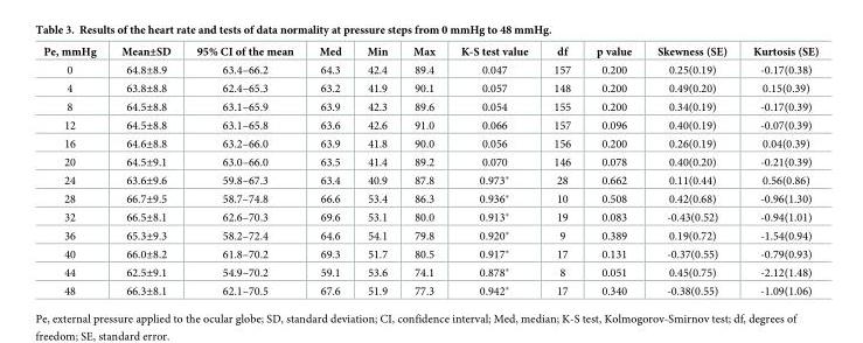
<table><thead><tr><td>Pe, mmHg</td><td>Mean±SD</td><td>95% CI of the mean</td><td>Med</td><td>Min</td><td>Max</td><td>K-S test value</td><td>df</td><td>p value</td><td>Skewness (SE)</td><td>Kurtosis (SE)</td></tr></thead><tbody><tr><td>0</td><td>64.8±8.9</td><td>63.4–66.2</td><td>64.3</td><td>42.4</td><td>89.4</td><td>0.047</td><td>157</td><td>0.200</td><td>0.25(0.19)</td><td>-0.17(0.38)</td></tr><tr><td>4</td><td>63.8±8.8</td><td>62.4–65.3</td><td>63.2</td><td>41.9</td><td>90.1</td><td>0.057</td><td>148</td><td>0.200</td><td>0.49(0.20)</td><td>0.15(0.39)</td></tr><tr><td>8</td><td>64.5±8.8</td><td>63.1–65.9</td><td>63.9</td><td>42.3</td><td>89.6</td><td>0.054</td><td>155</td><td>0.200</td><td>0.34(0.19)</td><td>-0.17(0.39)</td></tr><tr><td>12</td><td>64.5±8.8</td><td>63.1–65.8</td><td>63.6</td><td>42.6</td><td>91.0</td><td>0.066</td><td>157</td><td>0.096</td><td>0.40(0.19)</td><td>-0.07(0.39)</td></tr><tr><td>16</td><td>64.6±8.8</td><td>63.2–66.0</td><td>63.9</td><td>41.8</td><td>90.0</td><td>0.056</td><td>156</td><td>0.200</td><td>0.26(0.19)</td><td>0.04(0.39)</td></tr><tr><td>20</td><td>64.5±9.1</td><td>63.0–66.0</td><td>63.5</td><td>41.4</td><td>89.2</td><td>0.070</td><td>146</td><td>0.078</td><td>0.40(0.20)</td><td>-0.21(0.39)</td></tr><tr><td>24</td><td>63.6±9.6</td><td>59.8–67.3</td><td>63.4</td><td>40.9</td><td>87.8</td><td>0.973*</td><td>28</td><td>0.662</td><td>0.11(0.44)</td><td>0.56(0.86)</td></tr><tr><td>28</td><td>66.7±9.5</td><td>58.7–74.8</td><td>66.6</td><td>53.4</td><td>86.3</td><td>0.936*</td><td>10</td><td>0.508</td><td>0.42(0.68)</td><td>-0.96(1.30)</td></tr><tr><td>32</td><td>66.5±8.1</td><td>62.6–70.3</td><td>69.6</td><td>53.1</td><td>80.0</td><td>0.913*</td><td>19</td><td>0.083</td><td>-0.43(0.52)</td><td>-0.94(1.01)</td></tr><tr><td>36</td><td>65.3±9.3</td><td>58.2–72.4</td><td>64.6</td><td>54.1</td><td>79.8</td><td>0.920*</td><td>9</td><td>0.389</td><td>0.19(0.72)</td><td>-1.54(0.94)</td></tr><tr><td>40</td><td>66.0±8.2</td><td>61.8–70.2</td><td>69.3</td><td>51.7</td><td>80.5</td><td>0.917*</td><td>17</td><td>0.131</td><td>-0.37(0.55)</td><td>-0.79(0.93)</td></tr><tr><td>44</td><td>62.5±9.1</td><td>54.9–70.2</td><td>59.1</td><td>53.6</td><td>74.1</td><td>0.878*</td><td>8</td><td>0.051</td><td>0.45(0.75)</td><td>-2.12(1.48)</td></tr><tr><td>48</td><td>66.3±8.1</td><td>62.1–70.5</td><td>67.6</td><td>51.9</td><td>77.3</td><td>0.942*</td><td>17</td><td>0.340</td><td>-0.38(0.55)</td><td>-1.09(1.06)</td></tr></tbody></table>